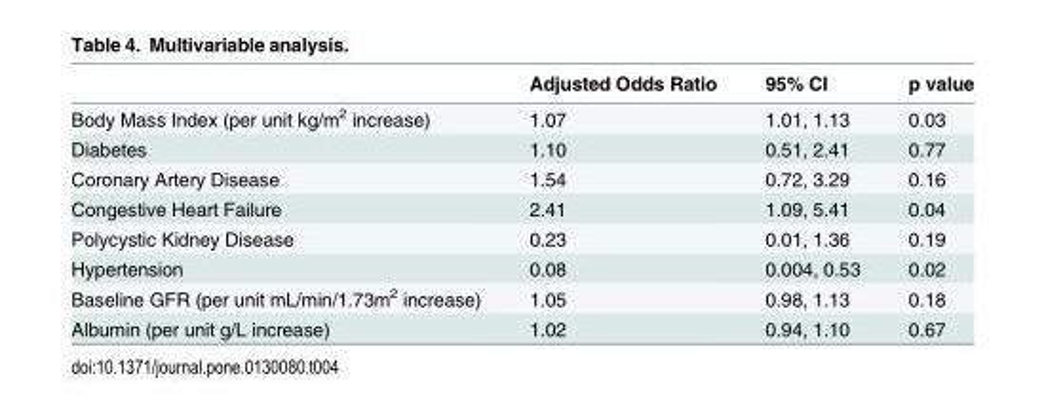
<table><thead><tr><td></td><td>Adjusted Odds Ratio</td><td>95% CI</td><td>p value</td></tr></thead><tbody><tr><td>Body Mass Index (per unit kg/m<sup>2</sup> increase)</td><td>1.07</td><td>1.01, 1.13</td><td>0.03</td></tr><tr><td>Diabetes</td><td>1.10</td><td>0.51, 2.41</td><td>0.77</td></tr><tr><td>Coronary Artery Disease</td><td>1.54</td><td>0.72, 3.29</td><td>0.16</td></tr><tr><td>Congestive Heart Failure</td><td>2.41</td><td>1.09, 5.41</td><td>0.04</td></tr><tr><td>Polycystic Kidney Disease</td><td>0.23</td><td>0.01, 1.36</td><td>0.19</td></tr><tr><td>Hypertension</td><td>0.08</td><td>0.004, 0.53</td><td>0.02</td></tr><tr><td>Baseline GFR (per unit mL/min/1.73m<sup>2</sup> increase)</td><td>1.05</td><td>0.98, 1.13</td><td>0.18</td></tr><tr><td>Albumin (per unit g/L increase)</td><td>1.02</td><td>0.94, 1.10</td><td>0.67</td></tr></tbody></table>